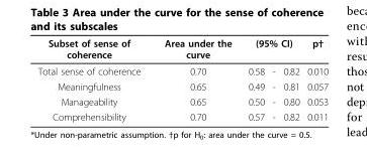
<table><thead><tr><td rowspan="2">Subset of sense of coherence Total sense of coherence</td><td rowspan="2">Area under the curve 0.70</td><td colspan="3">(95% CI)</td><td rowspan="2">p† 0.010</td></tr><tr><td>0.58</td><td>-</td><td>0.82</td></tr></thead><tbody><tr><td>Meaningfulness</td><td>0.65</td><td>0.49</td><td>-</td><td>0.81</td><td>0.057</td></tr><tr><td>Manageability</td><td>0.65</td><td>0.50</td><td>-</td><td>0.80</td><td>0.053</td></tr><tr><td>Comprehensibility</td><td>0.70</td><td>0.57</td><td>-</td><td>0.82</td><td>0.011</td></tr></tbody></table>